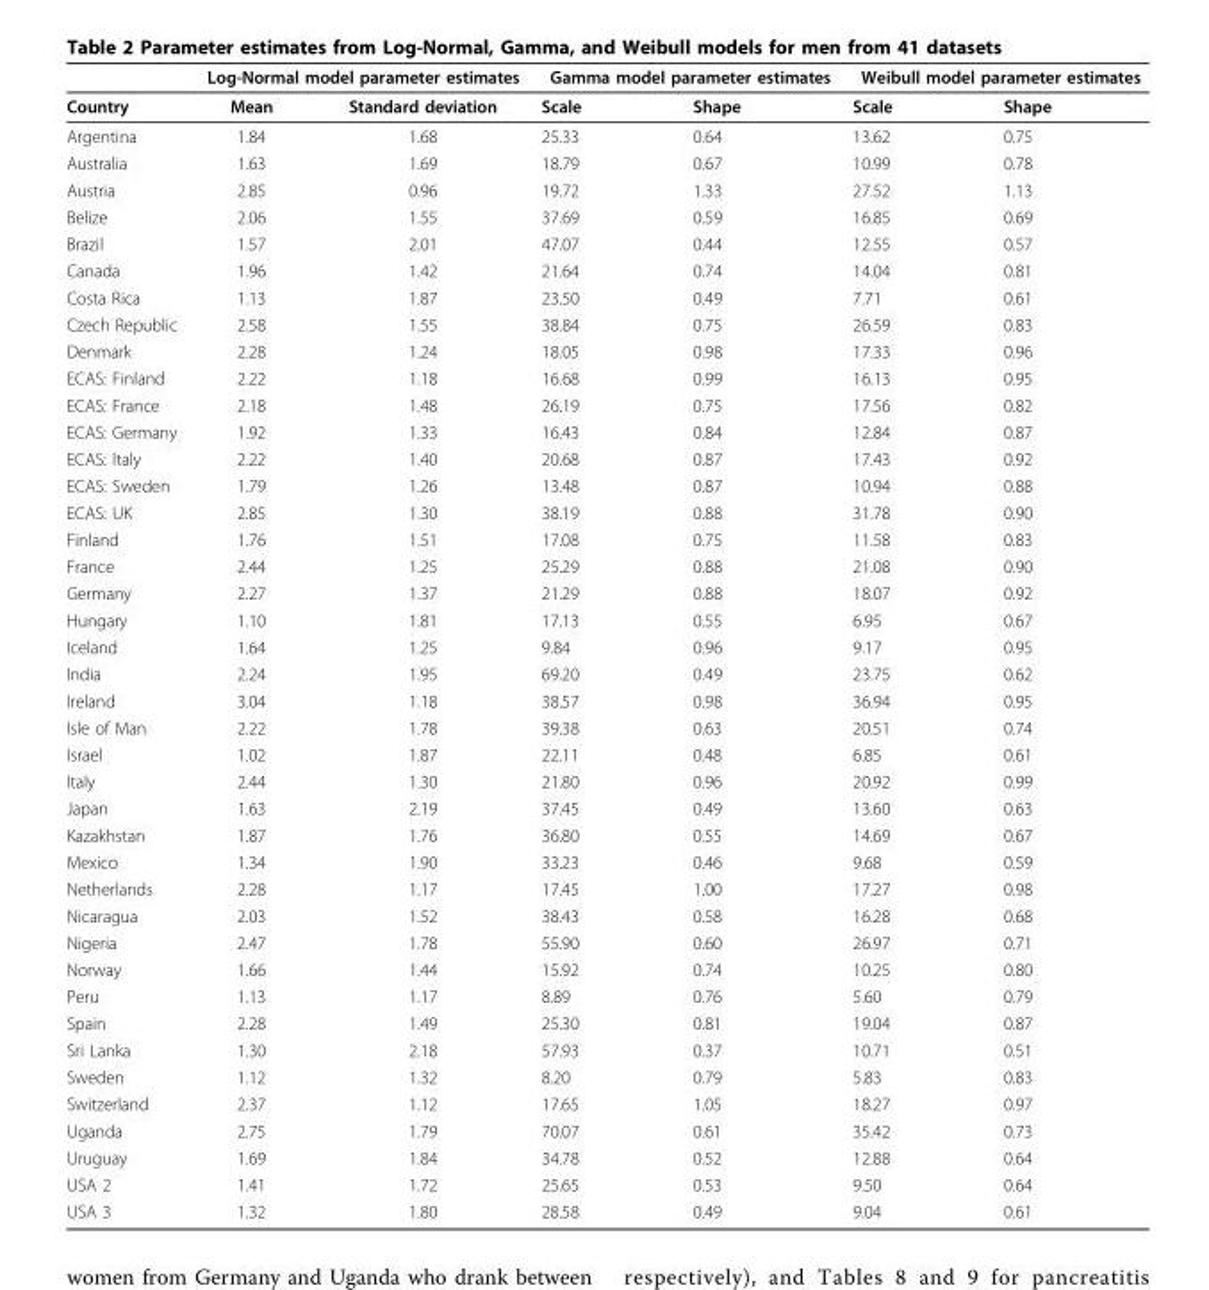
<table><thead><tr><td rowspan="2">Country</td><td colspan="2">Log-Normal model parameter estimates</td><td colspan="2">Gamma model parameter estimates</td><td colspan="2">Weibull model parameter estimates</td></tr><tr><td>Mean</td><td>Standard deviation</td><td>Scale</td><td>Shape</td><td>Scale</td><td>Shape</td></tr></thead><tbody><tr><td>Argentina</td><td>1.84</td><td>1.68</td><td>25.33</td><td>0.64</td><td>13.62</td><td>0.75</td></tr><tr><td>Australia</td><td>1.63</td><td>1.69</td><td>18.79</td><td>0.67</td><td>10.99</td><td>0.78</td></tr><tr><td>Austria</td><td>2.85</td><td>0.96</td><td>19.72</td><td>1.33</td><td>27.52</td><td>1.13</td></tr><tr><td>Belize</td><td>2.06</td><td>1.55</td><td>37.69</td><td>0.59</td><td>16.85</td><td>0.69</td></tr><tr><td>Brazil</td><td>1.57</td><td>2.01</td><td>47.07</td><td>0.44</td><td>12.55</td><td>0.57</td></tr><tr><td>Canada</td><td>1.96</td><td>1.42</td><td>21.64</td><td>0.74</td><td>14.04</td><td>0.81</td></tr><tr><td>Costa Rica</td><td>1.13</td><td>1.87</td><td>23.50</td><td>0.49</td><td>7.71</td><td>0.61</td></tr><tr><td>Czech Republic</td><td>2.58</td><td>1.55</td><td>38.84</td><td>0.75</td><td>26.59</td><td>0.83</td></tr><tr><td>Denmark</td><td>2.28</td><td>1.24</td><td>18.05</td><td>0.98</td><td>17.33</td><td>0.96</td></tr><tr><td>ECAS: Finland</td><td>2.22</td><td>1.18</td><td>16.68</td><td>0.99</td><td>16.13</td><td>0.95</td></tr><tr><td>ECAS: France</td><td>2.18</td><td>1.48</td><td>26.19</td><td>0.75</td><td>17.56</td><td>0.82</td></tr><tr><td>ECAS: Germany</td><td>1.92</td><td>1.33</td><td>16.43</td><td>0.84</td><td>12.84</td><td>0.87</td></tr><tr><td>ECAS: Italy</td><td>2.22</td><td>1.40</td><td>20.68</td><td>0.87</td><td>17.43</td><td>0.92</td></tr><tr><td>ECAS: Sweden</td><td>1.79</td><td>1.26</td><td>13.48</td><td>0.87</td><td>10.94</td><td>0.88</td></tr><tr><td>ECAS: UK</td><td>2.85</td><td>1.30</td><td>38.19</td><td>0.88</td><td>31.78</td><td>0.90</td></tr><tr><td>Finland</td><td>1.76</td><td>1.51</td><td>17.08</td><td>0.75</td><td>11.58</td><td>0.83</td></tr><tr><td>France</td><td>2.44</td><td>1.25</td><td>25.29</td><td>0.88</td><td>21.08</td><td>0.90</td></tr><tr><td>Germany</td><td>2.27</td><td>1.37</td><td>21.29</td><td>0.88</td><td>18.07</td><td>0.92</td></tr><tr><td>Hungary</td><td>1.10</td><td>1.81</td><td>17.13</td><td>0.55</td><td>6.95</td><td>0.67</td></tr><tr><td>Iceland</td><td>1.64</td><td>1.25</td><td>9.84</td><td>0.96</td><td>9.17</td><td>0.95</td></tr><tr><td>India</td><td>2.24</td><td>1.95</td><td>69.20</td><td>0.49</td><td>23.75</td><td>0.62</td></tr><tr><td>Ireland</td><td>3.04</td><td>1.18</td><td>38.57</td><td>0.98</td><td>36.94</td><td>0.95</td></tr><tr><td>Isle of Man</td><td>2.22</td><td>1.78</td><td>39.38</td><td>0.63</td><td>20.51</td><td>0.74</td></tr><tr><td>Israel</td><td>1.02</td><td>1.87</td><td>22.11</td><td>0.48</td><td>6.85</td><td>0.61</td></tr><tr><td>Italy</td><td>2.44</td><td>1.30</td><td>21.80</td><td>0.96</td><td>20.92</td><td>0.99</td></tr><tr><td>Japan</td><td>1.63</td><td>2.19</td><td>37.45</td><td>0.49</td><td>13.60</td><td>0.63</td></tr><tr><td>Kazakhstan</td><td>1.87</td><td>1.76</td><td>36.80</td><td>0.55</td><td>14.69</td><td>0.67</td></tr><tr><td>Mexico</td><td>1.34</td><td>1.90</td><td>33.23</td><td>0.46</td><td>9.68</td><td>0.59</td></tr><tr><td>Netherlands</td><td>2.28</td><td>1.17</td><td>17.45</td><td>1.00</td><td>17.27</td><td>0.98</td></tr><tr><td>Nicaragua</td><td>2.03</td><td>1.52</td><td>38.43</td><td>0.58</td><td>16.28</td><td>0.68</td></tr><tr><td>Nigeria</td><td>2.47</td><td>1.78</td><td>55.90</td><td>0.60</td><td>26.97</td><td>0.71</td></tr><tr><td>Norway</td><td>1.66</td><td>1.44</td><td>15.92</td><td>0.74</td><td>10.25</td><td>0.80</td></tr><tr><td>Peru</td><td>1.13</td><td>1.17</td><td>8.89</td><td>0.76</td><td>5.60</td><td>0.79</td></tr><tr><td>Spain</td><td>2.28</td><td>1.49</td><td>25.30</td><td>0.81</td><td>19.04</td><td>0.87</td></tr><tr><td>Sri Lanka</td><td>1.30</td><td>2.18</td><td>57.93</td><td>0.37</td><td>10.71</td><td>0.51</td></tr><tr><td>Sweden</td><td>1.12</td><td>1.32</td><td>8.20</td><td>0.79</td><td>5.83</td><td>0.83</td></tr><tr><td>Switzerland</td><td>2.37</td><td>1.12</td><td>17.65</td><td>1.05</td><td>18.27</td><td>0.97</td></tr><tr><td>Uganda</td><td>2.75</td><td>1.79</td><td>70.07</td><td>0.61</td><td>35.42</td><td>0.73</td></tr><tr><td>Uruguay</td><td>1.69</td><td>1.84</td><td>34.78</td><td>0.52</td><td>12.88</td><td>0.64</td></tr><tr><td>USA 2</td><td>1.41</td><td>1.72</td><td>25.65</td><td>0.53</td><td>9.50</td><td>0.64</td></tr><tr><td>USA 3</td><td>1.32</td><td>1.80</td><td>28.58</td><td>0.49</td><td>9.04</td><td>0.61</td></tr></tbody></table>